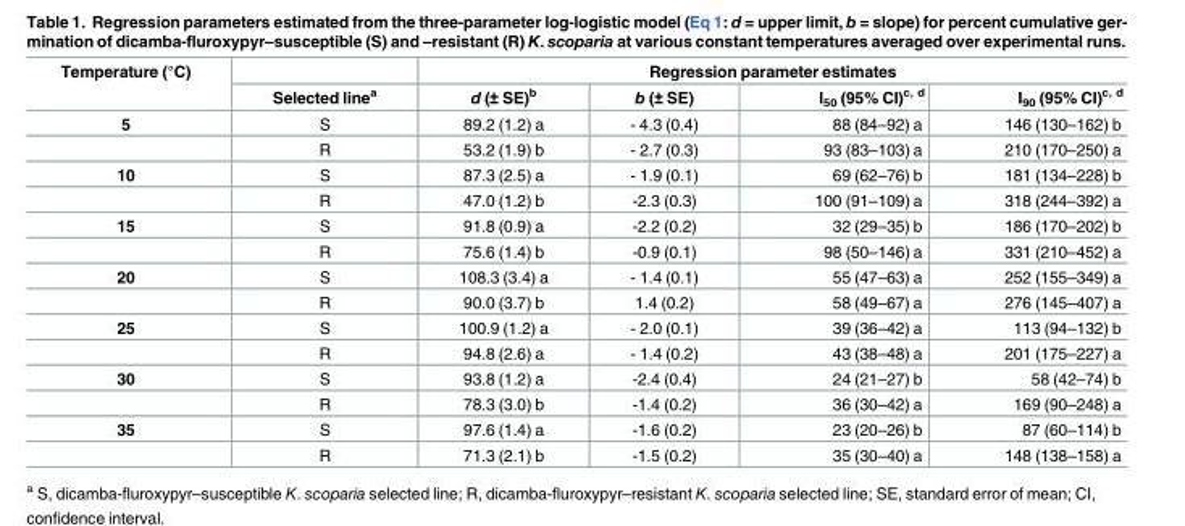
<table><thead><tr><td rowspan="2">Temperature (°C)</td><td rowspan="2">Selected line<sup>a</sup></td><td colspan="4">Regression parameter estimates</td></tr><tr><td>d (± SE)<sup>b</sup></td><td>b (± SE)</td><td>I<sub>50</sub> (95% CI)<sup>c, d</sup></td><td>I<sub>90</sub> (95% CI)<sup>c, d</sup></td></tr></thead><tbody><tr><td rowspan="2">5</td><td>S</td><td>89.2 (1.2) a</td><td>- 4.3 (0.4)</td><td>88 (84–92) a</td><td>146 (130–162) b</td></tr><tr><td>R</td><td>53.2 (1.9) b</td><td>- 2.7 (0.3)</td><td>93 (83–103) a</td><td>210 (170–250) a</td></tr><tr><td rowspan="2">10</td><td>S</td><td>87.3 (2.5) a</td><td>- 1.9 (0.1)</td><td>69 (62–76) b</td><td>181 (134–228) b</td></tr><tr><td>R</td><td>47.0 (1.2) b</td><td>-2.3 (0.3)</td><td>100 (91–109) a</td><td>318 (244–392) a</td></tr><tr><td rowspan="2">15</td><td>S</td><td>91.8 (0.9) a</td><td>-2.2 (0.2)</td><td>32 (29–35) b</td><td>186 (170–202) b</td></tr><tr><td>R</td><td>75.6 (1.4) b</td><td>-0.9 (0.1)</td><td>98 (50–146) a</td><td>331 (210–452) a</td></tr><tr><td rowspan="2">20</td><td>S</td><td>108.3 (3.4) a</td><td>- 1.4 (0.1)</td><td>55 (47–63) a</td><td>252 (155–349) a</td></tr><tr><td>R</td><td>90.0 (3.7) b</td><td>1.4 (0.2)</td><td>58 (49–67) a</td><td>276 (145–407) a</td></tr><tr><td rowspan="2">25</td><td>S</td><td>100.9 (1.2) a</td><td>- 2.0 (0.1)</td><td>39 (36–42) a</td><td>113 (94–132) b</td></tr><tr><td>R</td><td>94.8 (2.6) a</td><td>- 1.4 (0.2)</td><td>43 (38–48) a</td><td>201 (175–227) a</td></tr><tr><td rowspan="2">30</td><td>S</td><td>93.8 (1.2) a</td><td>-2.4 (0.4)</td><td>24 (21–27) b</td><td>58 (42–74) b</td></tr><tr><td>R</td><td>78.3 (3.0) b</td><td>-1.4 (0.2)</td><td>36 (30–42) a</td><td>169 (90–248) a</td></tr><tr><td rowspan="2">35</td><td>S</td><td>97.6 (1.4) a</td><td>-1.6 (0.2)</td><td>23 (20–26) b</td><td>87 (60–114) b</td></tr><tr><td>R</td><td>71.3 (2.1) b</td><td>-1.5 (0.2)</td><td>35 (30–40) a</td><td>148 (138–158) a</td></tr></tbody></table>